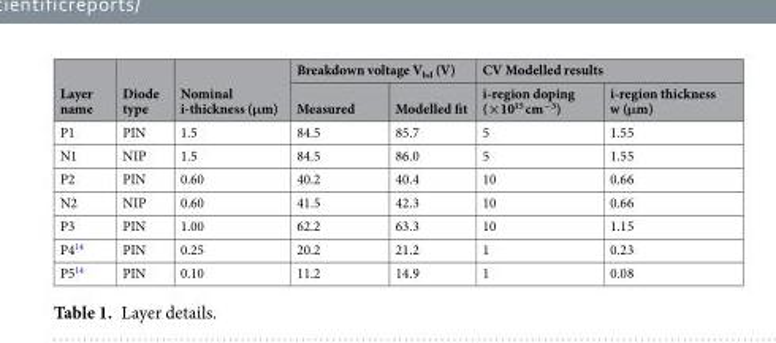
<table><thead><tr><td rowspan="2">Layer name</td><td rowspan="2">Diode type</td><td rowspan="2">Nominal i-thickness (μm)</td><td colspan="2">Breakdown voltage V<sub>bd</sub> (V)</td><td colspan="2">CV Modelled results</td></tr><tr><td>Measured</td><td>Modelled fit</td><td>i-region doping (×10<sup>15</sup> cm<sup>−3</sup>)</td><td>i-region thickness w (μm)</td></tr></thead><tbody><tr><td>P1</td><td>PIN</td><td>1.5</td><td>84.5</td><td>85.7</td><td>5</td><td>1.55</td></tr><tr><td>N1</td><td>NIP</td><td>1.5</td><td>84.5</td><td>86.0</td><td>5</td><td>1.55</td></tr><tr><td>P2</td><td>PIN</td><td>0.60</td><td>40.2</td><td>40.4</td><td>10</td><td>0.66</td></tr><tr><td>N2</td><td>NIP</td><td>0.60</td><td>41.5</td><td>42.3</td><td>10</td><td>0.66</td></tr><tr><td>P3</td><td>PIN</td><td>1.00</td><td>62.2</td><td>63.3</td><td>10</td><td>1.15</td></tr><tr><td>P4<sup>14</sup></td><td>PIN</td><td>0.25</td><td>20.2</td><td>21.2</td><td>1</td><td>0.23</td></tr><tr><td>P5<sup>14</sup></td><td>PIN</td><td>0.10</td><td>11.2</td><td>14.9</td><td>1</td><td>0.08</td></tr></tbody></table>